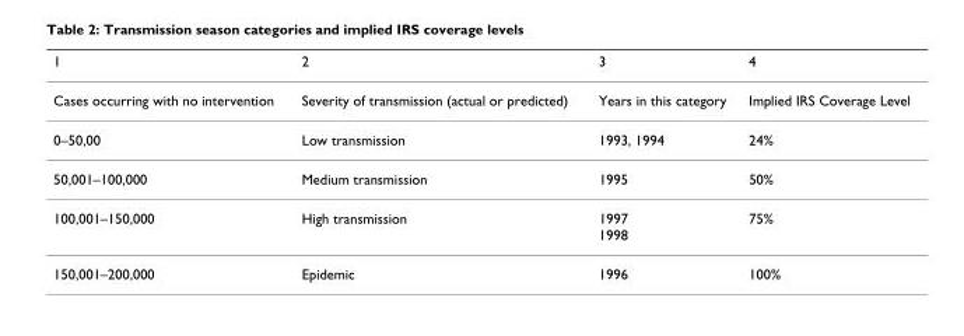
<table><thead><tr><td>1</td><td>2</td><td>3</td><td>4</td></tr></thead><tbody><tr><td>Cases occurring with no intervention</td><td>Severity of transmission (actual or predicted)</td><td>Years in this category</td><td>Implied IRS Coverage Level</td></tr><tr><td>0–50,00</td><td>Low transmission</td><td>1993, 1994</td><td>24%</td></tr><tr><td>50,001–100,000</td><td>Medium transmission</td><td>1995</td><td>50%</td></tr><tr><td>100,001–150,000</td><td>High transmission</td><td>1997 1998</td><td>75%</td></tr><tr><td>150,001–200,000</td><td>Epidemic</td><td>1996</td><td>100%</td></tr></tbody></table>